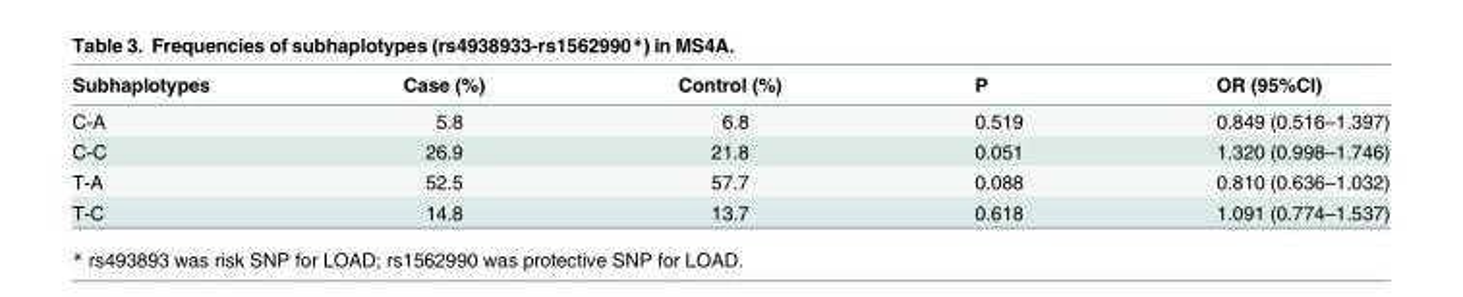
<table><thead><tr><td>Subhaplotypes</td><td>Case (%)</td><td>Control (%)</td><td>P</td><td>OR (95%CI)</td></tr></thead><tbody><tr><td>C-A</td><td>5.8</td><td>6.8</td><td>0.519</td><td>0.849 (0.516–1.397)</td></tr><tr><td>C-C</td><td>26.9</td><td>21.8</td><td>0.051</td><td>1.320 (0.998–1.746)</td></tr><tr><td>T-A</td><td>52.5</td><td>57.7</td><td>0.088</td><td>0.810 (0.636–1.032)</td></tr><tr><td>T-C</td><td>14.8</td><td>13.7</td><td>0.618</td><td>1.091 (0.774–1.537)</td></tr></tbody></table>